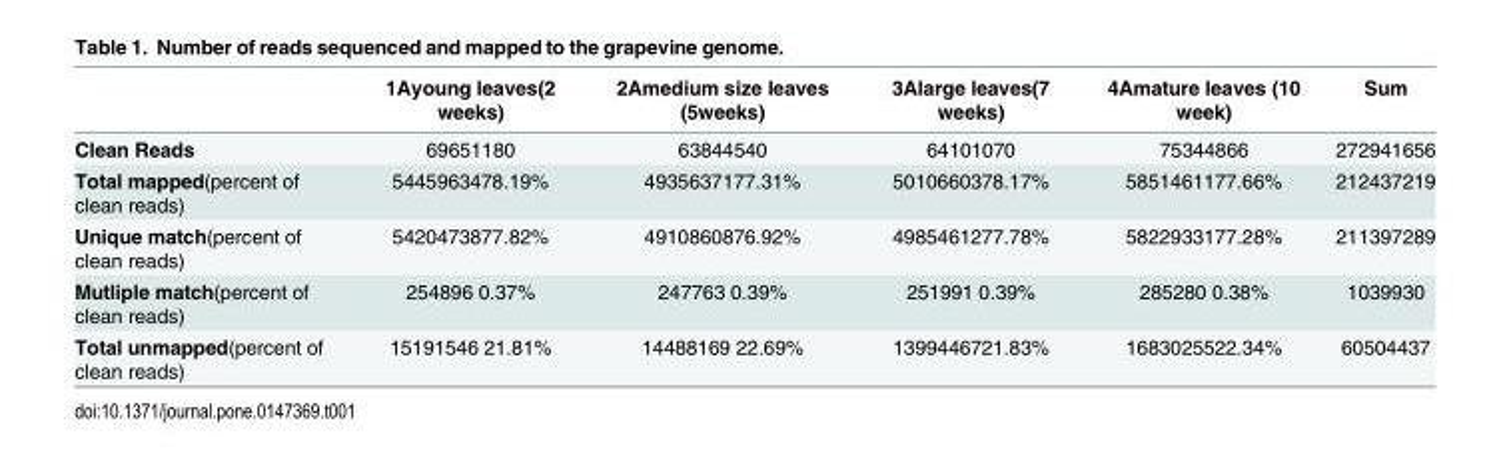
<table><thead><tr><td></td><td>1Ayoung leaves(2 weeks)</td><td>2Amedium size leaves (5weeks)</td><td>3Alarge leaves(7 weeks)</td><td>4Amature leaves (10 week)</td><td>Sum</td></tr></thead><tbody><tr><td>Clean Reads</td><td>69651180</td><td>63844540</td><td>64101070</td><td>75344866</td><td>272941656</td></tr><tr><td>Total mapped(percent of clean reads)</td><td>5445963478.19%</td><td>4935637177.31%</td><td>5010660378.17%</td><td>5851461177.66%</td><td>212437219</td></tr><tr><td>Unique match(percent of clean reads)</td><td>5420473877.82%</td><td>4910860876.92%</td><td>4985461277.78%</td><td>5822933177.28%</td><td>211397289</td></tr><tr><td>Mutliple match(percent of clean reads)</td><td>254896 0.37%</td><td>247763 0.39%</td><td>251991 0.39%</td><td>285280 0.38%</td><td>1039930</td></tr><tr><td>Total unmapped(percent of clean reads)</td><td>15191546 21.81%</td><td>14488169 22.69%</td><td>1399446721.83%</td><td>1683025522.34%</td><td>60504437</td></tr></tbody></table>